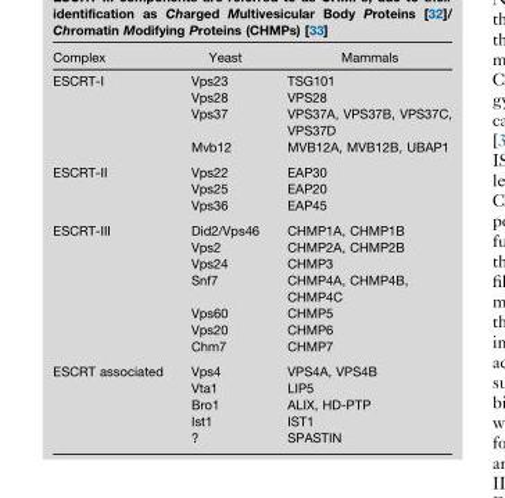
<table><thead><tr><td>Complex</td><td>Yeast</td><td>Mammals</td></tr></thead><tbody><tr><td rowspan="4">ESCRT-I</td><td>Vps23</td><td>TSG101</td></tr><tr><td>Vps28</td><td>VPS28</td></tr><tr><td>Vps37</td><td>VPS37A, VPS37B, VPS37C, VPS37D</td></tr><tr><td>Mvb12</td><td>MVB12A, MVB12B, UBAP1</td></tr><tr><td rowspan="3">ESCRT-II</td><td>Vps22</td><td>EAP30</td></tr><tr><td>Vps25</td><td>EAP20</td></tr><tr><td>Vps36</td><td>EAP45</td></tr><tr><td rowspan="7">ESCRT-III</td><td>Did2/Vps46</td><td>CHMP1A, CHMP1B</td></tr><tr><td>Vps2</td><td>CHMP2A, CHMP2B</td></tr><tr><td>Vps24</td><td>CHMP3</td></tr><tr><td>Snf7</td><td>CHMP4A, CHMP4B, CHMP4C</td></tr><tr><td>Vps60</td><td>CHMP5</td></tr><tr><td>Vps20</td><td>CHMP6</td></tr><tr><td>Chm7</td><td>CHMP7</td></tr><tr><td rowspan="5">ESCRT associated</td><td>Vps4</td><td>VPS4A, VPS4B</td></tr><tr><td>Vta1</td><td>LIP5</td></tr><tr><td>Bro1</td><td>ALIX, HD-PTP</td></tr><tr><td>Ist1</td><td>IST1</td></tr><tr><td>?</td><td>SPASTIN</td></tr></tbody></table>